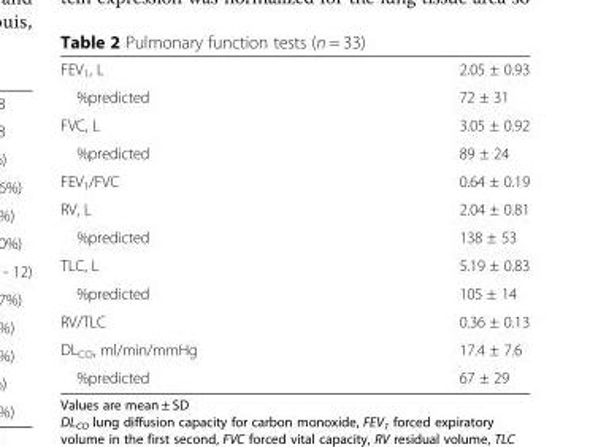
<table><tbody><tr><td>FEV<sub>1</sub>, L</td><td>2.05 ± 0.93</td></tr><tr><td>%predicted</td><td>72 ± 31</td></tr><tr><td>FVC, L</td><td>3.05 ± 0.92</td></tr><tr><td>%predicted</td><td>89 ± 24</td></tr><tr><td>FEV<sub>1</sub>/FVC</td><td>0.64 ± 0.19</td></tr><tr><td>RV, L</td><td>2.04 ± 0.81</td></tr><tr><td>%predicted</td><td>138 ± 53</td></tr><tr><td>TLC, L</td><td>5.19 ± 0.83</td></tr><tr><td>%predicted</td><td>105 ± 14</td></tr><tr><td>RV/TLC</td><td>0.36 ± 0.13</td></tr><tr><td>DL<sub>CO</sub>, ml/min/mmHg</td><td>17.4 ± 7.6</td></tr><tr><td>%predicted</td><td>67 ± 29</td></tr></tbody></table>